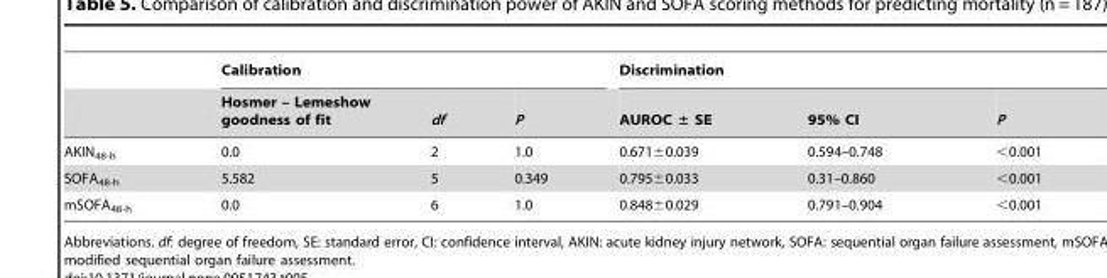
<table><thead><tr><td rowspan="2"></td><td colspan="3">Calibration</td><td colspan="3">Discrimination</td></tr><tr><td>Hosmer – Lemeshow goodness of fit</td><td>df</td><td>P</td><td>AUROC ± SE</td><td>95% CI</td><td>P</td></tr></thead><tbody><tr><td>AKIN<sub>48-h</sub></td><td>0.0</td><td>2</td><td>1.0</td><td>0.671±0.039</td><td>0.594–0.748</td><td>&lt;0.001</td></tr><tr><td>SOFA<sub>48-h</sub></td><td>5.582</td><td>5</td><td>0.349</td><td>0.795±0.033</td><td>0.31–0.860</td><td>&lt;0.001</td></tr><tr><td>mSOFA<sub>48-h</sub></td><td>0.0</td><td>6</td><td>1.0</td><td>0.848±0.029</td><td>0.791–0.904</td><td>&lt;0.001</td></tr></tbody></table>